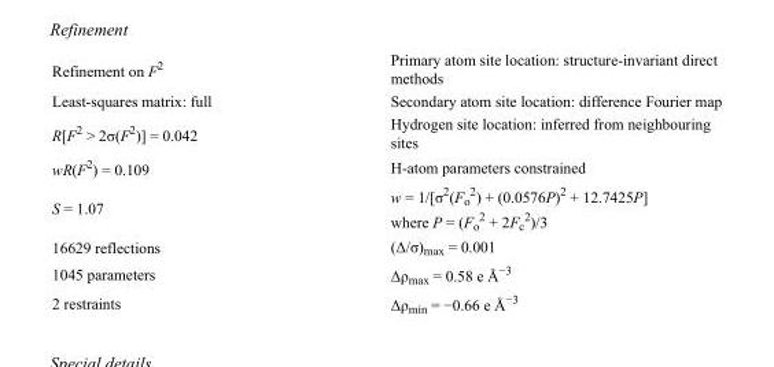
<table><tbody><tr><td>Refinement on F<sup>2</sup></td><td>Primary atom site location: structure-invariant direct methods</td></tr><tr><td>Least-squares matrix: full</td><td>Secondary atom site location: difference Fourier map</td></tr><tr><td>R[F<sup>2</sup> &gt; 2σ(F<sup>2</sup>)] = 0.042</td><td>Hydrogen site location: inferred from neighbouring sites</td></tr><tr><td>wR(F<sup>2</sup>) = 0.109</td><td>H-atom parameters constrained</td></tr><tr><td>S = 1.07</td><td>w = 1/[σ<sup>2</sup>(F<sub>o</sub> <sup>2</sup>) + (0.0576P)<sup>2</sup> + 12.7425P] where P = (F<sub>o</sub> <sup>2</sup> + 2F<sub>c</sub> <sup>2</sup>)/3</td></tr><tr><td>16629 reflections</td><td>(Δ/σ)<sub>max</sub> = 0.001</td></tr><tr><td>1045 parameters</td><td>Δρ<sub>max</sub> = 0.58 e Å<sup>−3</sup></td></tr><tr><td>2 restraints</td><td>Δρ<sub>min</sub> = −0.66 e Å<sup>−3</sup></td></tr></tbody></table>